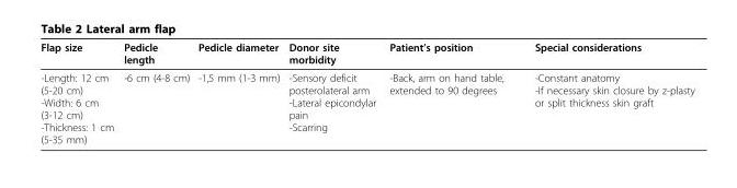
<table><thead><tr><td>Flap size</td><td>Pedicle length</td><td>Pedicle diameter</td><td>Donor site morbidity</td><td>Patient’s position</td><td>Special considerations</td></tr></thead><tbody><tr><td>-Length: 12 cm (5-20 cm) -Width: 6 cm (3-12 cm) -Thickness: 1 cm (5-35 mm)</td><td>-6 cm (4-8 cm)</td><td>-1,5 mm (1-3 mm)</td><td>-Sensory deficit posterolateral arm -Lateral epicondylar pain -Scarring</td><td>-Back, arm on hand table, extended to 90 degrees</td><td>-Constant anatomy -If necessary skin closure by z-plasty or split thickness skin graft</td></tr></tbody></table>